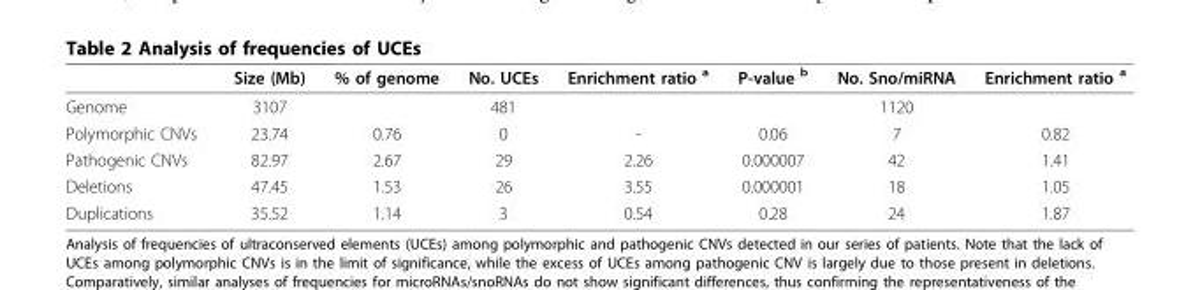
<table><thead><tr><td></td><td>Size (Mb)</td><td>% of genome</td><td>No. UCEs</td><td>Enrichment ratio <sup>a</sup></td><td>P-value <sup>b</sup></td><td>No. Sno/miRNA</td><td>Enrichment ratio <sup>a</sup></td></tr></thead><tbody><tr><td>Genome</td><td>3107</td><td></td><td>481</td><td></td><td></td><td>1120</td><td></td></tr><tr><td>Polymorphic CNVs</td><td>23.74</td><td>0.76</td><td>0</td><td>-</td><td>0.06</td><td>7</td><td>0.82</td></tr><tr><td>Pathogenic CNVs</td><td>82.97</td><td>2.67</td><td>29</td><td>2.26</td><td>0.000007</td><td>42</td><td>1.41</td></tr><tr><td>Deletions</td><td>47.45</td><td>1.53</td><td>26</td><td>3.55</td><td>0.000001</td><td>18</td><td>1.05</td></tr><tr><td>Duplications</td><td>35.52</td><td>1.14</td><td>3</td><td>0.54</td><td>0.28</td><td>24</td><td>1.87</td></tr></tbody></table>